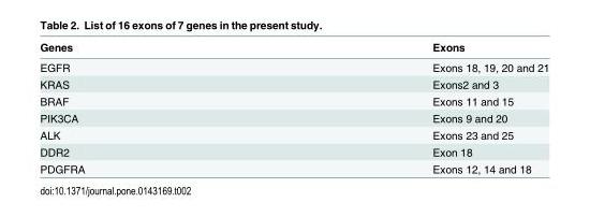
<table><thead><tr><td>Genes</td><td>Exons</td></tr></thead><tbody><tr><td>EGFR</td><td>Exons 18, 19, 20 and 21</td></tr><tr><td>KRAS</td><td>Exons2 and 3</td></tr><tr><td>BRAF</td><td>Exons 11 and 15</td></tr><tr><td>PIK3CA</td><td>Exons 9 and 20</td></tr><tr><td>ALK</td><td>Exons 23 and 25</td></tr><tr><td>DDR2</td><td>Exon 18</td></tr><tr><td>PDGFRA</td><td>Exons 12, 14 and 18</td></tr></tbody></table>